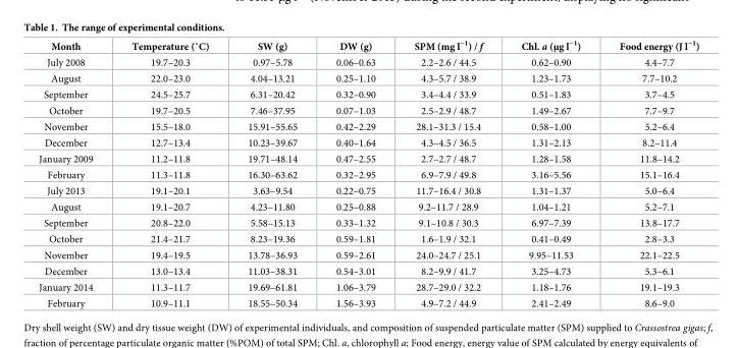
<table><thead><tr><td>Month</td><td>Temperature (˚C)</td><td>SW (g)</td><td>DW (g)</td><td>SPM (mg l<sup>−1</sup>) / f</td><td>Chl. a (μg l<sup>−1</sup>)</td><td>Food energy (J l<sup>−1</sup>)</td></tr></thead><tbody><tr><td>July 2008</td><td>19.7–20.3</td><td>0.97–5.78</td><td>0.06–0.63</td><td>2.2–2.6 / 44.5</td><td>0.62–0.90</td><td>4.4–7.7</td></tr><tr><td>August</td><td>22.0–23.0</td><td>4.04–13.21</td><td>0.25–1.10</td><td>4.3–5.7 / 38.9</td><td>1.23–1.73</td><td>7.7–10.2</td></tr><tr><td>September</td><td>24.5–25.7</td><td>6.31–20.42</td><td>0.32–0.90</td><td>3.4–4.4 / 33.9</td><td>0.51–1.83</td><td>3.7–4.5</td></tr><tr><td>October</td><td>19.7–20.5</td><td>7.46–37.95</td><td>0.07–1.03</td><td>2.5–2.9 / 48.7</td><td>1.49–2.67</td><td>7.7–9.7</td></tr><tr><td>November</td><td>15.5–18.0</td><td>15.91–55.65</td><td>0.42–2.29</td><td>28.1–31.3 / 15.4</td><td>0.58–1.00</td><td>5.2–6.4</td></tr><tr><td>December</td><td>12.7–13.4</td><td>10.23–39.67</td><td>0.40–1.64</td><td>4.3–4.5 / 36.5</td><td>1.31–2.13</td><td>8.2–11.4</td></tr><tr><td>January 2009</td><td>11.2–11.8</td><td>19.71–48.14</td><td>0.47–2.55</td><td>2.7–2.7 / 48.7</td><td>1.28–1.58</td><td>11.8–14.2</td></tr><tr><td>February</td><td>11.3–11.8</td><td>16.30–63.62</td><td>0.32–2.95</td><td>6.9–7.9 / 49.8</td><td>3.16–5.56</td><td>15.1–16.4</td></tr><tr><td>July 2013</td><td>19.1–20.1</td><td>3.63–9.54</td><td>0.22–0.75</td><td>11.7–16.4 / 30.8</td><td>1.31–1.37</td><td>5.0–6.4</td></tr><tr><td>August</td><td>19.1–20.7</td><td>4.23–11.80</td><td>0.25–0.88</td><td>9.2–11.7 / 28.9</td><td>1.04–1.21</td><td>5.2–7.1</td></tr><tr><td>September</td><td>20.8–22.0</td><td>5.58–15.13</td><td>0.33–1.32</td><td>9.1–10.8 / 30.3</td><td>6.97–7.39</td><td>13.8–17.7</td></tr><tr><td>October</td><td>21.4–21.7</td><td>8.23–19.36</td><td>0.59–1.81</td><td>1.6–1.9 / 32.1</td><td>0.41–0.49</td><td>2.8–3.3</td></tr><tr><td>November</td><td>19.4–19.5</td><td>13.78–36.93</td><td>0.59–2.61</td><td>24.0–24.7 / 25.1</td><td>9.95–11.53</td><td>22.1–22.5</td></tr><tr><td>December</td><td>13.0–13.4</td><td>11.03–38.31</td><td>0.54–3.01</td><td>8.2–9.9 / 41.7</td><td>3.25–4.73</td><td>5.3–6.1</td></tr><tr><td>January 2014</td><td>11.3–11.7</td><td>19.69–61.81</td><td>1.06–3.79</td><td>28.7–29.0 / 32.2</td><td>1.18–1.76</td><td>19.1–19.3</td></tr><tr><td>February</td><td>10.9–11.1</td><td>18.55–50.34</td><td>1.56–3.93</td><td>4.9–7.2 / 44.9</td><td>2.41–2.49</td><td>8.6–9.0</td></tr></tbody></table>